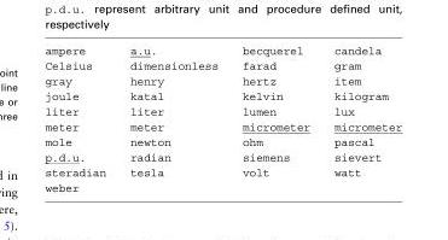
<table><tbody><tr><td>ampere</td><td>a.u.</td><td>becquerel</td><td>candela</td></tr><tr><td>Celsius</td><td>dimensionless</td><td>farad</td><td>gram</td></tr><tr><td>gray</td><td>henry</td><td>hertz</td><td>item</td></tr><tr><td>joule</td><td>katal</td><td>kelvin</td><td>kilogram</td></tr><tr><td>liter</td><td>liter</td><td>lumen</td><td>lux</td></tr><tr><td>meter</td><td>meter</td><td>micrometer</td><td>micrometer</td></tr><tr><td>mole</td><td>newton</td><td>ohm</td><td>pascal</td></tr><tr><td>p.d.u.</td><td>radian</td><td>siemens</td><td>sievert</td></tr><tr><td>steradian</td><td>tesla</td><td>volt</td><td>watt</td></tr><tr><td>weber</td><td></td><td></td><td></td></tr></tbody></table>